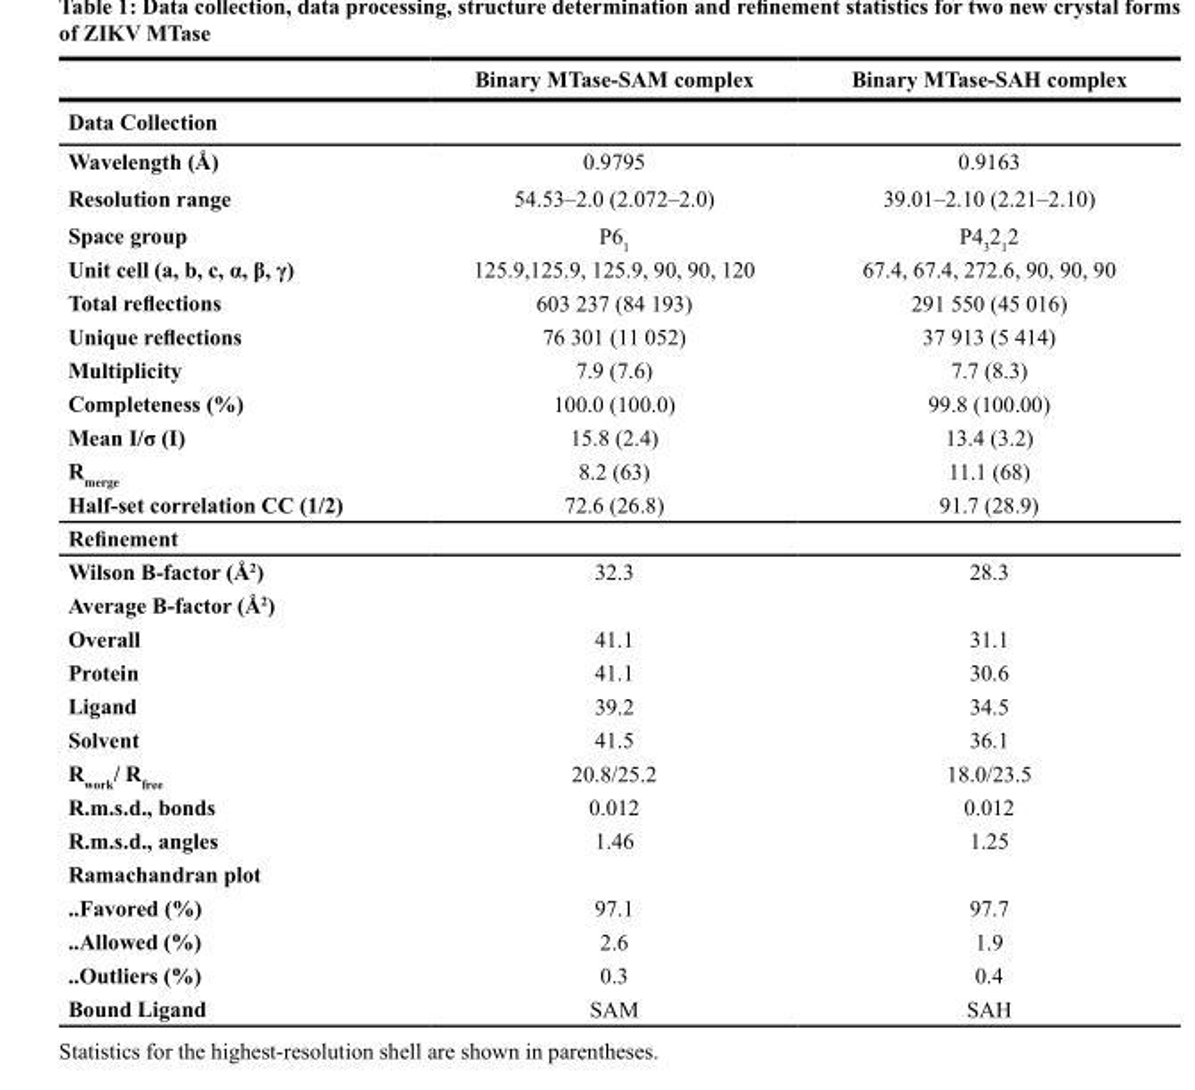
<table><thead><tr><td></td><td>Binary MTase-SAM complex</td><td>Binary MTase-SAH complex</td></tr></thead><tbody><tr><td colspan="3">Data Collection</td></tr><tr><td>Wavelength (Å)</td><td>0.9795</td><td>0.9163</td></tr><tr><td>Resolution range</td><td>54.53–2.0 (2.072–2.0)</td><td>39.01–2.10 (2.21–2.10)</td></tr><tr><td>Space group</td><td>P6<sub>1</sub></td><td>P4<sub>3</sub>2<sub>1</sub>2</td></tr><tr><td>Unit cell (a, b, c, α, β, γ)</td><td>125.9,125.9, 125.9, 90, 90, 120</td><td>67.4, 67.4, 272.6, 90, 90, 90</td></tr><tr><td>Total reflections</td><td>603 237 (84 193)</td><td>291 550 (45 016)</td></tr><tr><td>Unique reflections</td><td>76 301 (11 052)</td><td>37 913 (5 414)</td></tr><tr><td>Multiplicity</td><td>7.9 (7.6)</td><td>7.7 (8.3)</td></tr><tr><td>Completeness (%)</td><td>100.0 (100.0)</td><td>99.8 (100.00)</td></tr><tr><td>Mean I/σ (I)</td><td>15.8 (2.4)</td><td>13.4 (3.2)</td></tr><tr><td>R<sub>merge</sub></td><td>8.2 (63)</td><td>11.1 (68)</td></tr><tr><td>Half-set correlation CC (1/2)</td><td>72.6 (26.8)</td><td>91.7 (28.9)</td></tr><tr><td colspan="3">Refinement</td></tr><tr><td>Wilson B-factor (Å<sup>2</sup>)</td><td>32.3</td><td>28.3</td></tr><tr><td colspan="3">Average B-factor (Å<sup>2</sup>)</td></tr><tr><td>Overall</td><td>41.1</td><td>31.1</td></tr><tr><td>Protein</td><td>41.1</td><td>30.6</td></tr><tr><td>Ligand</td><td>39.2</td><td>34.5</td></tr><tr><td>Solvent</td><td>41.5</td><td>36.1</td></tr><tr><td>R<sub>work</sub>/ R<sub>free</sub></td><td>20.8/25.2</td><td>18.0/23.5</td></tr><tr><td>R.m.s.d., bonds</td><td>0.012</td><td>0.012</td></tr><tr><td>R.m.s.d., angles</td><td>1.46</td><td>1.25</td></tr><tr><td colspan="3">Ramachandran plot</td></tr><tr><td>..Favored (%)</td><td>97.1</td><td>97.7</td></tr><tr><td>..Allowed (%)</td><td>2.6</td><td>1.9</td></tr><tr><td>..Outliers (%)</td><td>0.3</td><td>0.4</td></tr><tr><td>Bound Ligand</td><td>SAM</td><td>SAH</td></tr></tbody></table>